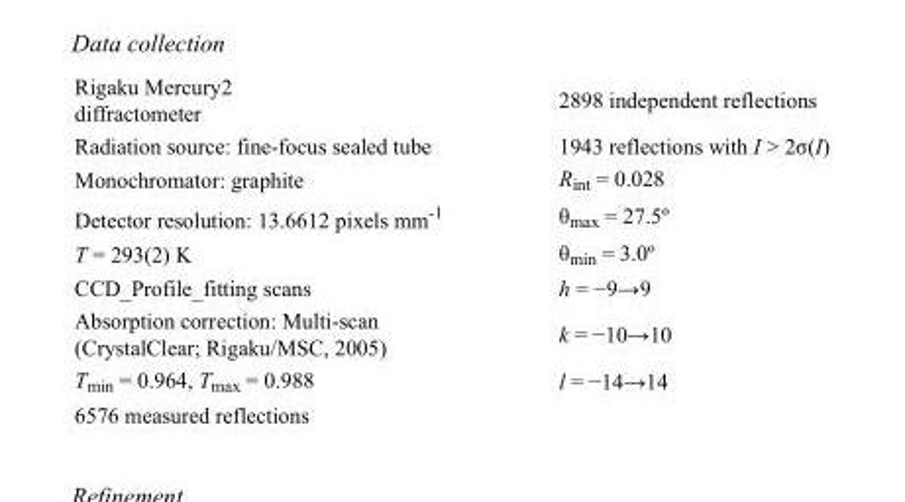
<table><tbody><tr><td>Rigaku Mercury2 diffractometer</td><td>2898 independent reflections</td></tr><tr><td>Radiation source: fine-focus sealed tube</td><td>1943 reflections with I &gt; 2σ(I)</td></tr><tr><td>Monochromator: graphite</td><td>R<sub>int</sub> = 0.028</td></tr><tr><td>Detector resolution: 13.6612 pixels mm<sup>-1</sup></td><td>θ<sub>max</sub> = 27.5º</td></tr><tr><td>T = 293(2) K</td><td>θ<sub>min</sub> = 3.0º</td></tr><tr><td>CCD_Profile_fitting scans</td><td>h = −9→9</td></tr><tr><td>Absorption correction: Multi-scan (CrystalClear; Rigaku/MSC, 2005)</td><td>k = −10→10</td></tr><tr><td>T<sub>min</sub> = 0.964, T<sub>max</sub> = 0.988</td><td>l = −14→14</td></tr><tr><td>6576 measured reflections</td><td></td></tr></tbody></table>